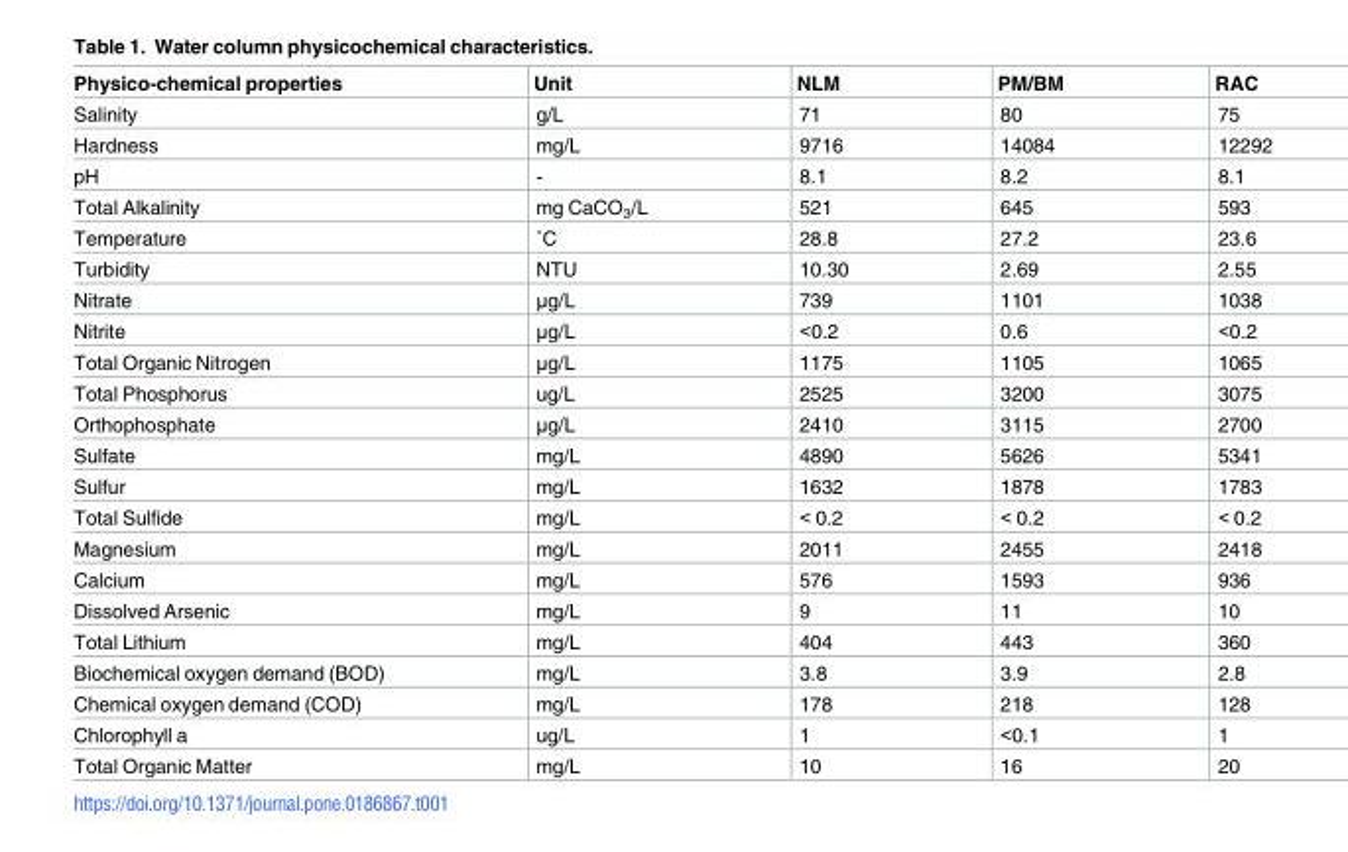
<table><thead><tr><td>Physico-chemical properties</td><td>Unit</td><td>NLM</td><td>PM/BM</td><td>RAC</td></tr></thead><tbody><tr><td>Salinity</td><td>g/L</td><td>71</td><td>80</td><td>75</td></tr><tr><td>Hardness</td><td>mg/L</td><td>9716</td><td>14084</td><td>12292</td></tr><tr><td>pH</td><td>-</td><td>8.1</td><td>8.2</td><td>8.1</td></tr><tr><td>Total Alkalinity</td><td>mg CaCO<sub>3</sub>/L</td><td>521</td><td>645</td><td>593</td></tr><tr><td>Temperature</td><td>˚C</td><td>28.8</td><td>27.2</td><td>23.6</td></tr><tr><td>Turbidity</td><td>NTU</td><td>10.30</td><td>2.69</td><td>2.55</td></tr><tr><td>Nitrate</td><td>μg/L</td><td>739</td><td>1101</td><td>1038</td></tr><tr><td>Nitrite</td><td>μg/L</td><td>&lt;0.2</td><td>0.6</td><td>&lt;0.2</td></tr><tr><td>Total Organic Nitrogen</td><td>μg/L</td><td>1175</td><td>1105</td><td>1065</td></tr><tr><td>Total Phosphorus</td><td>ug/L</td><td>2525</td><td>3200</td><td>3075</td></tr><tr><td>Orthophosphate</td><td>μg/L</td><td>2410</td><td>3115</td><td>2700</td></tr><tr><td>Sulfate</td><td>mg/L</td><td>4890</td><td>5626</td><td>5341</td></tr><tr><td>Sulfur</td><td>mg/L</td><td>1632</td><td>1878</td><td>1783</td></tr><tr><td>Total Sulfide</td><td>mg/L</td><td>&lt; 0.2</td><td>&lt; 0.2</td><td>&lt; 0.2</td></tr><tr><td>Magnesium</td><td>mg/L</td><td>2011</td><td>2455</td><td>2418</td></tr><tr><td>Calcium</td><td>mg/L</td><td>576</td><td>1593</td><td>936</td></tr><tr><td>Dissolved Arsenic</td><td>mg/L</td><td>9</td><td>11</td><td>10</td></tr><tr><td>Total Lithium</td><td>mg/L</td><td>404</td><td>443</td><td>360</td></tr><tr><td>Biochemical oxygen demand (BOD)</td><td>mg/L</td><td>3.8</td><td>3.9</td><td>2.8</td></tr><tr><td>Chemical oxygen demand (COD)</td><td>mg/L</td><td>178</td><td>218</td><td>128</td></tr><tr><td>Chlorophyll a</td><td>ug/L</td><td>1</td><td>&lt;0.1</td><td>1</td></tr><tr><td>Total Organic Matter</td><td>mg/L</td><td>10</td><td>16</td><td>20</td></tr></tbody></table>